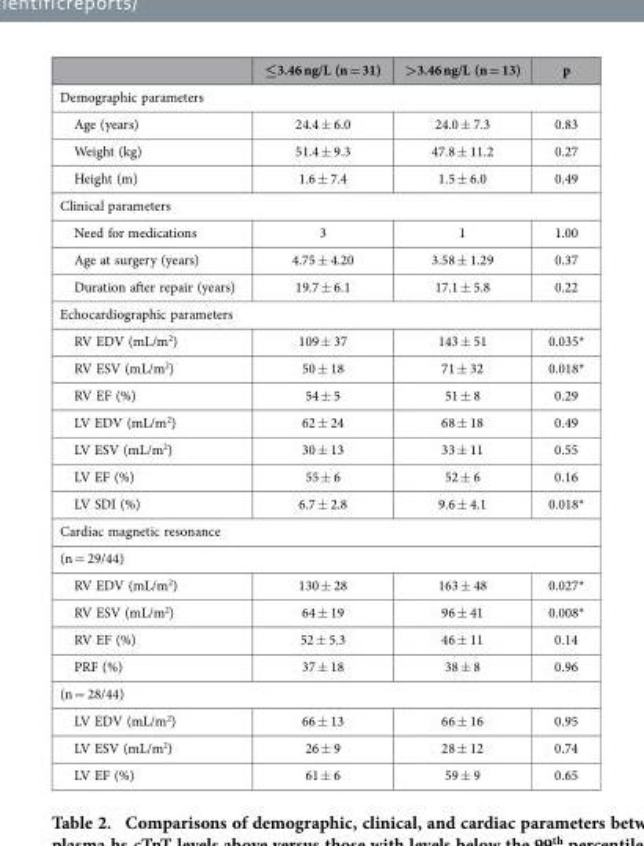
<table><thead><tr><td></td><td>≤3.46 ng/L (n = 31)</td><td>&gt;3.46 ng/L (n = 13)</td><td>p</td></tr></thead><tbody><tr><td colspan="4">Demographic parameters</td></tr><tr><td>Age (years)</td><td>24.4 ± 6.0</td><td>24.0 ± 7.3</td><td>0.83</td></tr><tr><td>Weight (kg)</td><td>51.4 ± 9.3</td><td>47.8 ± 11.2</td><td>0.27</td></tr><tr><td>Height (m)</td><td>1.6 ± 7.4</td><td>1.5 ± 6.0</td><td>0.49</td></tr><tr><td colspan="4">Clinical parameters</td></tr><tr><td>Need for medications</td><td>3</td><td>1</td><td>1.00</td></tr><tr><td>Age at surgery (years)</td><td>4.75 ± 4.20</td><td>3.58 ± 1.29</td><td>0.37</td></tr><tr><td>Duration after repair (years)</td><td>19.7 ± 6.1</td><td>17.1 ± 5.8</td><td>0.22</td></tr><tr><td colspan="4">Echocardiographic parameters</td></tr><tr><td>RV EDV (mL/m<sup>2</sup>)</td><td>109 ± 37</td><td>143 ± 51</td><td>0.035*</td></tr><tr><td>RV ESV (mL/m<sup>2</sup>)</td><td>50 ± 18</td><td>71 ± 32</td><td>0.018*</td></tr><tr><td>RV EF (%)</td><td>54 ± 5</td><td>51 ± 8</td><td>0.29</td></tr><tr><td>LV EDV (mL/m<sup>2</sup>)</td><td>62 ± 24</td><td>68 ± 18</td><td>0.49</td></tr><tr><td>LV ESV (mL/m<sup>2</sup>)</td><td>30 ± 13</td><td>33 ± 11</td><td>0.55</td></tr><tr><td>LV EF (%)</td><td>55 ± 6</td><td>52 ± 6</td><td>0.16</td></tr><tr><td>LV SDI (%)</td><td>6.7 ± 2.8</td><td>9.6 ± 4.1</td><td>0.018*</td></tr><tr><td colspan="4">Cardiac magnetic resonance</td></tr><tr><td colspan="4">(n = 29/44)</td></tr><tr><td>RV EDV (mL/m<sup>2</sup>)</td><td>130 ± 28</td><td>163 ± 48</td><td>0.027*</td></tr><tr><td>RV ESV (mL/m<sup>2</sup>)</td><td>64 ± 19</td><td>96 ± 41</td><td>0.008*</td></tr><tr><td>RV EF (%)</td><td>52 ± 5.3</td><td>46 ± 11</td><td>0.14</td></tr><tr><td>PRF (%)</td><td>37 ± 18</td><td>38 ± 8</td><td>0.96</td></tr><tr><td colspan="4">(n = 28/44)</td></tr><tr><td>LV EDV (mL/m<sup>2</sup>)</td><td>66 ± 13</td><td>66 ± 16</td><td>0.95</td></tr><tr><td>LV ESV (mL/m<sup>2</sup>)</td><td>26 ± 9</td><td>28 ± 12</td><td>0.74</td></tr><tr><td>LV EF (%)</td><td>61 ± 6</td><td>59 ± 9</td><td>0.65</td></tr></tbody></table>